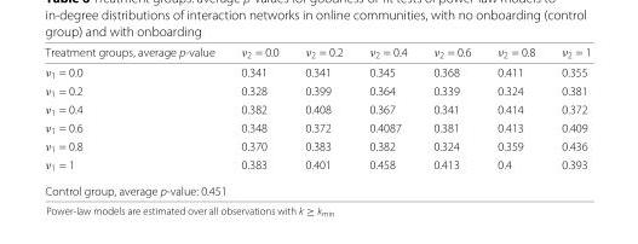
<table><thead><tr><td>Treatment groups, average p-value</td><td>ν<sub>2</sub> = 0.0</td><td>ν<sub>2</sub> = 0.2</td><td>ν<sub>2</sub> = 0.4</td><td>ν<sub>2</sub> = 0.6</td><td>ν<sub>2</sub> = 0.8</td><td>ν<sub>2</sub> = 1</td></tr></thead><tbody><tr><td>ν<sub>1</sub> = 0.0</td><td>0.341</td><td>0.341</td><td>0.345</td><td>0.368</td><td>0.411</td><td>0.355</td></tr><tr><td>ν<sub>1</sub> = 0.2</td><td>0.328</td><td>0.399</td><td>0.364</td><td>0.339</td><td>0.324</td><td>0.381</td></tr><tr><td>ν<sub>1</sub> = 0.4</td><td>0.382</td><td>0.408</td><td>0.367</td><td>0.341</td><td>0.414</td><td>0.372</td></tr><tr><td>ν<sub>1</sub> = 0.6</td><td>0.348</td><td>0.372</td><td>0.4087</td><td>0.381</td><td>0.413</td><td>0.409</td></tr><tr><td>ν<sub>1</sub> = 0.8</td><td>0.370</td><td>0.383</td><td>0.382</td><td>0.324</td><td>0.359</td><td>0.436</td></tr><tr><td>ν<sub>1</sub> = 1</td><td>0.383</td><td>0.401</td><td>0.458</td><td>0.413</td><td>0.4</td><td>0.393</td></tr><tr><td colspan="7">Control group, average p-value: 0.451</td></tr></tbody></table>